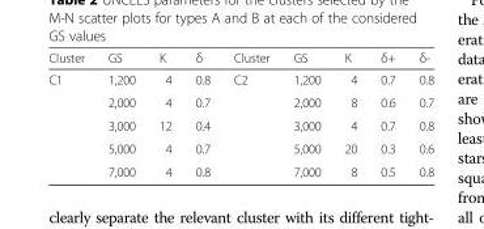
<table><thead><tr><td>Cluster</td><td>GS</td><td>K</td><td>δ</td><td>Cluster</td><td>GS</td><td>K</td><td>δ+</td><td>δ-</td></tr></thead><tbody><tr><td rowspan="5">C1</td><td>1,200</td><td>4</td><td>0.8</td><td>C2</td><td>1,200</td><td>4</td><td>0.7</td><td>0.8</td></tr><tr><td>2,000</td><td>4</td><td>0.7</td><td></td><td>2,000</td><td>8</td><td>0.6</td><td>0.7</td></tr><tr><td>3,000</td><td>12</td><td>0.4</td><td></td><td>3,000</td><td>4</td><td>0.7</td><td>0.8</td></tr><tr><td>5,000</td><td>4</td><td>0.7</td><td></td><td>5,000</td><td>20</td><td>0.3</td><td>0.6</td></tr><tr><td>7,000</td><td>4</td><td>0.8</td><td></td><td>7,000</td><td>8</td><td>0.5</td><td>0.8</td></tr></tbody></table>